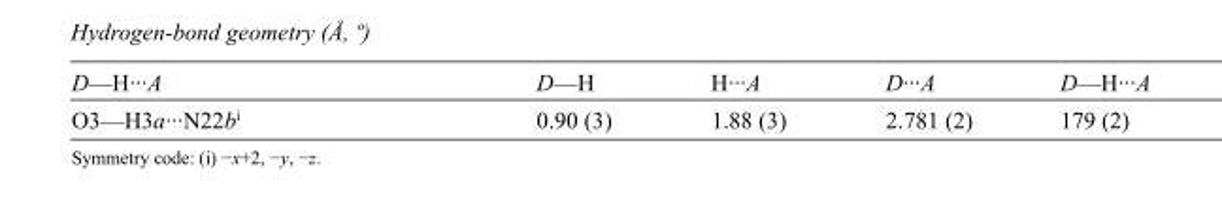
<table><tbody><tr><td>D—H···A</td><td>D—H</td><td>H···A</td><td>D···A</td><td>D—H···A</td></tr><tr><td>O3—H3a···N22b<sup>i</sup></td><td>0.90 (3)</td><td>1.88 (3)</td><td>2.781 (2)</td><td>179 (2)</td></tr></tbody></table>